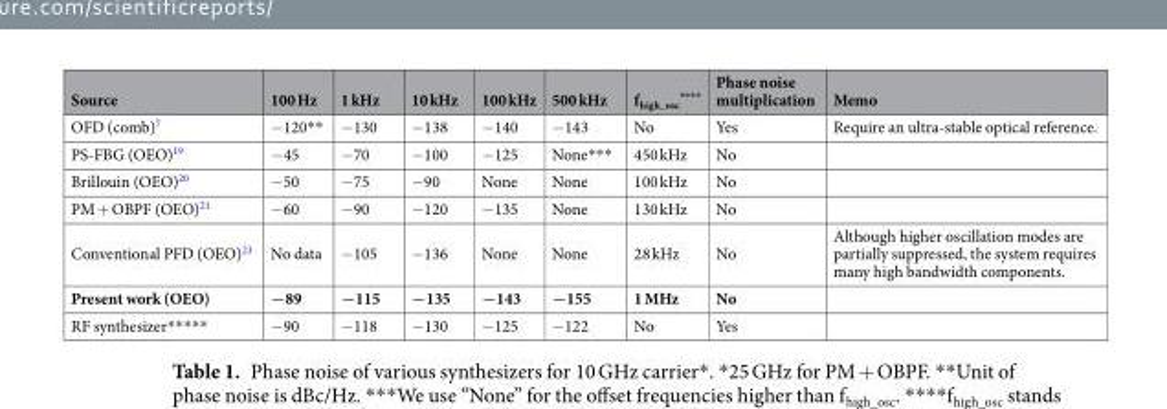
<table><thead><tr><td>Source</td><td>100 Hz</td><td>1 kHz</td><td>10 kHz</td><td>100 kHz</td><td>500 kHz</td><td>f<sub>high_osc</sub> ****</td><td>Phase noise multiplication</td><td>Memo</td></tr></thead><tbody><tr><td>OFD (comb)<sup>7</sup></td><td>−120**</td><td>−130</td><td>−138</td><td>−140</td><td>−143</td><td>No</td><td>Yes</td><td>Require an ultra-stable optical reference.</td></tr><tr><td>PS-FBG (OEO)<sup>19</sup></td><td>−45</td><td>−70</td><td>−100</td><td>−125</td><td>None***</td><td>450 kHz</td><td>No</td><td></td></tr><tr><td>Brillouin (OEO)<sup>20</sup></td><td>−50</td><td>−75</td><td>−90</td><td>None</td><td>None</td><td>100 kHz</td><td>No</td><td></td></tr><tr><td>PM + OBPF (OEO)<sup>21</sup></td><td>−60</td><td>−90</td><td>−120</td><td>−135</td><td>None</td><td>130 kHz</td><td>No</td><td></td></tr><tr><td>Conventional PFD (OEO)<sup>23</sup></td><td>No data</td><td>−105</td><td>−136</td><td>None</td><td>None</td><td>28 kHz</td><td>No</td><td>Although higher oscillation modes are partially suppressed, the system requires many high bandwidth components.</td></tr><tr><td>Present work (OEO)</td><td>−89</td><td>−115</td><td>−135</td><td>−143</td><td>−155</td><td>1 MHz</td><td>No</td><td></td></tr><tr><td>RF synthesizer*****</td><td>−90</td><td>−118</td><td>−130</td><td>−125</td><td>−122</td><td>No</td><td>Yes</td><td></td></tr></tbody></table>